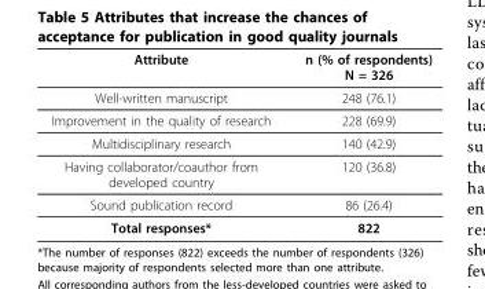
<table><thead><tr><td>Attribute</td><td>n (% of respondents) N = 326</td></tr></thead><tbody><tr><td>Well-written manuscript</td><td>248 (76.1)</td></tr><tr><td>Improvement in the quality of research</td><td>228 (69.9)</td></tr><tr><td>Multidisciplinary research</td><td>140 (42.9)</td></tr><tr><td>Having collaborator/coauthor from developed country</td><td>120 (36.8)</td></tr><tr><td>Sound publication record</td><td>86 (26.4)</td></tr><tr><td>Total responses*</td><td>822</td></tr></tbody></table>